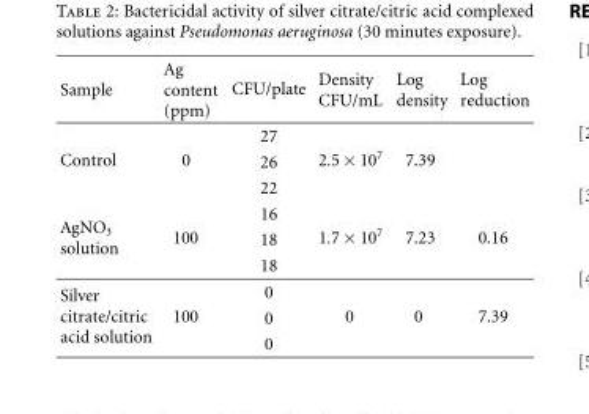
<table><thead><tr><td>Sample</td><td>Ag content (ppm)</td><td>CFU/plate</td><td>Density CFU/mL</td><td>Log density</td><td>Log reduction</td></tr></thead><tbody><tr><td rowspan="3">Control</td><td rowspan="3">0</td><td>27</td><td rowspan="3">2.5 × 10<sup>7</sup></td><td rowspan="3">7.39</td><td></td></tr><tr><td>26</td><td></td></tr><tr><td>22</td><td></td></tr><tr><td rowspan="3">AgNO<sub>3</sub> solution</td><td rowspan="3">100</td><td>16</td><td rowspan="3">1.7 × 10<sup>7</sup></td><td rowspan="3">7.23</td><td rowspan="3">0.16</td></tr><tr><td>18</td></tr><tr><td>18</td></tr><tr><td rowspan="3">Silver citrate/citric acid solution</td><td rowspan="3">100</td><td>0</td><td rowspan="3">0</td><td rowspan="3">0</td><td rowspan="3">7.39</td></tr><tr><td>0</td></tr><tr><td>0</td></tr></tbody></table>